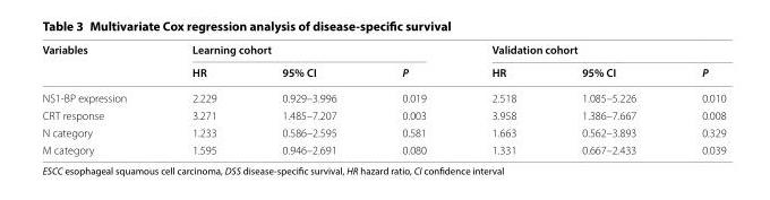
<table><thead><tr><td rowspan="2">Variables</td><td colspan="3">Learning cohort</td><td colspan="3">Validation cohort</td></tr><tr><td>HR</td><td>95% CI</td><td>P</td><td>HR</td><td>95% CI</td><td>P</td></tr></thead><tbody><tr><td>NS1-BP expression</td><td>2.229</td><td>0.929–3.996</td><td>0.019</td><td>2.518</td><td>1.085–5.226</td><td>0.010</td></tr><tr><td>CRT response</td><td>3.271</td><td>1.485–7.207</td><td>0.003</td><td>3.958</td><td>1.386–7.667</td><td>0.008</td></tr><tr><td>N category</td><td>1.233</td><td>0.586–2.595</td><td>0.581</td><td>1.663</td><td>0.562–3.893</td><td>0.329</td></tr><tr><td>M category</td><td>1.595</td><td>0.946–2.691</td><td>0.080</td><td>1.331</td><td>0.667–2.433</td><td>0.039</td></tr></tbody></table>